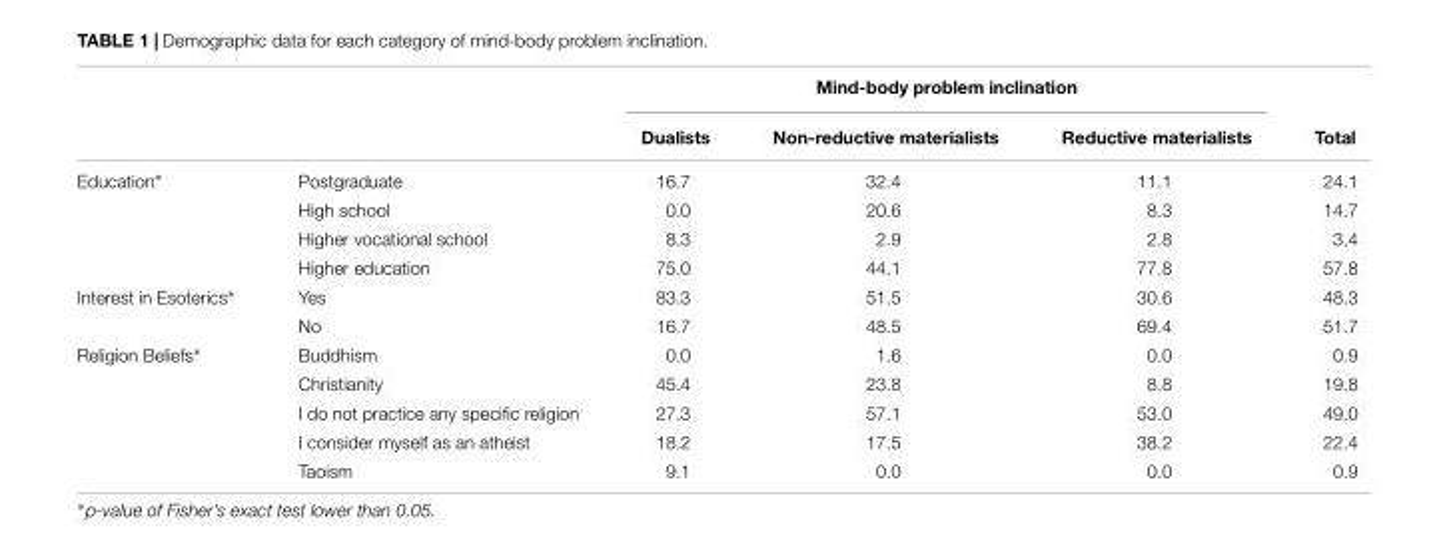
<table><thead><tr><td rowspan="2"></td><td rowspan="2"></td><td colspan="3">Mind-body problem inclination</td><td rowspan="2">Total</td></tr><tr><td>Dualists</td><td>Non-reductive materialists</td><td>Reductive materialists</td></tr></thead><tbody><tr><td rowspan="4">Education∗</td><td>Postgraduate</td><td>16.7</td><td>32.4</td><td>11.1</td><td>24.1</td></tr><tr><td>High school</td><td>0.0</td><td>20.6</td><td>8.3</td><td>14.7</td></tr><tr><td>Higher vocational school</td><td>8.3</td><td>2.9</td><td>2.8</td><td>3.4</td></tr><tr><td>Higher education</td><td>75.0</td><td>44.1</td><td>77.8</td><td>57.8</td></tr><tr><td rowspan="2">Interest in Esoterics∗</td><td>Yes</td><td>83.3</td><td>51.5</td><td>30.6</td><td>48.3</td></tr><tr><td>No</td><td>16.7</td><td>48.5</td><td>69.4</td><td>51.7</td></tr><tr><td rowspan="5">Religion Beliefs∗</td><td>Buddhism</td><td>0.0</td><td>1.6</td><td>0.0</td><td>0.9</td></tr><tr><td>Christianity</td><td>45.4</td><td>23.8</td><td>8.8</td><td>19.8</td></tr><tr><td>I do not practice any specific religion</td><td>27.3</td><td>57.1</td><td>53.0</td><td>49.0</td></tr><tr><td>I consider myself as an atheist</td><td>18.2</td><td>17.5</td><td>38.2</td><td>22.4</td></tr><tr><td>Taoism</td><td>9.1</td><td>0.0</td><td>0.0</td><td>0.9</td></tr></tbody></table>